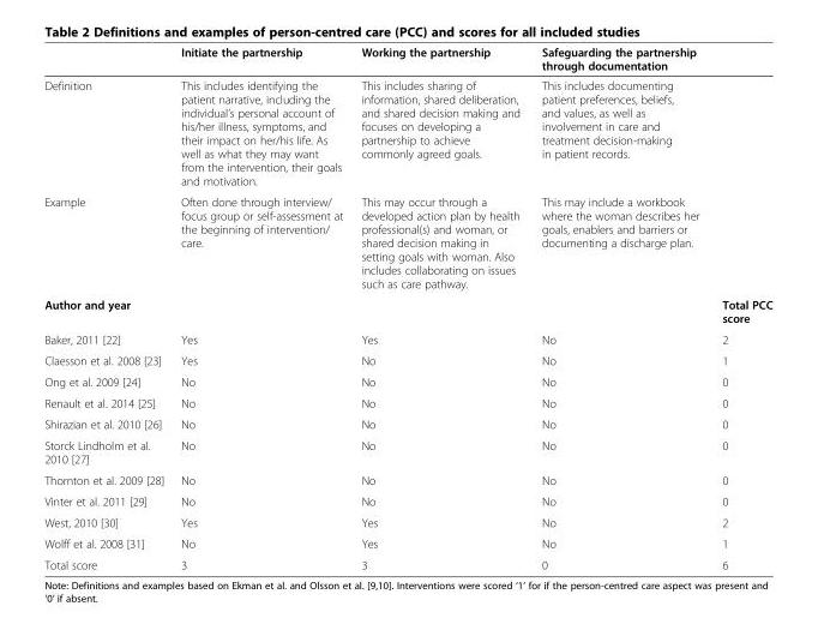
<table><thead><tr><td></td><td>Initiate the partnership</td><td>Working the partnership</td><td>Safeguarding the partnership through documentation</td><td></td></tr></thead><tbody><tr><td>Definition</td><td>This includes identifying the patient narrative, including the individual’s personal account of his/her illness, symptoms, and their impact on her/his life. As well as what they may want from the intervention, their goals and motivation.</td><td>This includes sharing of information, shared deliberation, and shared decision making and focuses on developing a partnership to achieve commonly agreed goals.</td><td>This includes documenting patient preferences, beliefs, and values, as well as involvement in care and treatment decision-making in patient records.</td><td rowspan="2"></td></tr><tr><td>Example</td><td>Often done through interview/ focus group or self-assessment at the beginning of intervention/ care.</td><td>This may occur through a developed action plan by health professional(s) and woman, or shared decision making in setting goals with woman. Also includes collaborating on issues such as care pathway.</td><td>This may include a workbook where the woman describes her goals, enablers and barriers or documenting a discharge plan.</td></tr><tr><td>Author and year</td><td></td><td></td><td></td><td>Total PCC score</td></tr><tr><td>Baker, 2011 [22]</td><td>Yes</td><td>Yes</td><td>No</td><td>2</td></tr><tr><td>Claesson et al. 2008 [23]</td><td>Yes</td><td>No</td><td>No</td><td>1</td></tr><tr><td>Ong et al. 2009 [24]</td><td>No</td><td>No</td><td>No</td><td>0</td></tr><tr><td>Renault et al. 2014 [25]</td><td>No</td><td>No</td><td>No</td><td>0</td></tr><tr><td>Shirazian et al. 2010 [26]</td><td>No</td><td>No</td><td>No</td><td>0</td></tr><tr><td>Storck Lindholm et al. 2010 [27]</td><td>No</td><td>No</td><td>No</td><td>0</td></tr><tr><td>Thornton et al. 2009 [28]</td><td>No</td><td>No</td><td>No</td><td>0</td></tr><tr><td>Vinter et al. 2011 [29]</td><td>No</td><td>No</td><td>No</td><td>0</td></tr><tr><td>West, 2010 [30]</td><td>Yes</td><td>Yes</td><td>No</td><td>2</td></tr><tr><td>Wolff et al. 2008 [31]</td><td>No</td><td>Yes</td><td>No</td><td>1</td></tr><tr><td>Total score</td><td>3</td><td>3</td><td>0</td><td>6</td></tr></tbody></table>